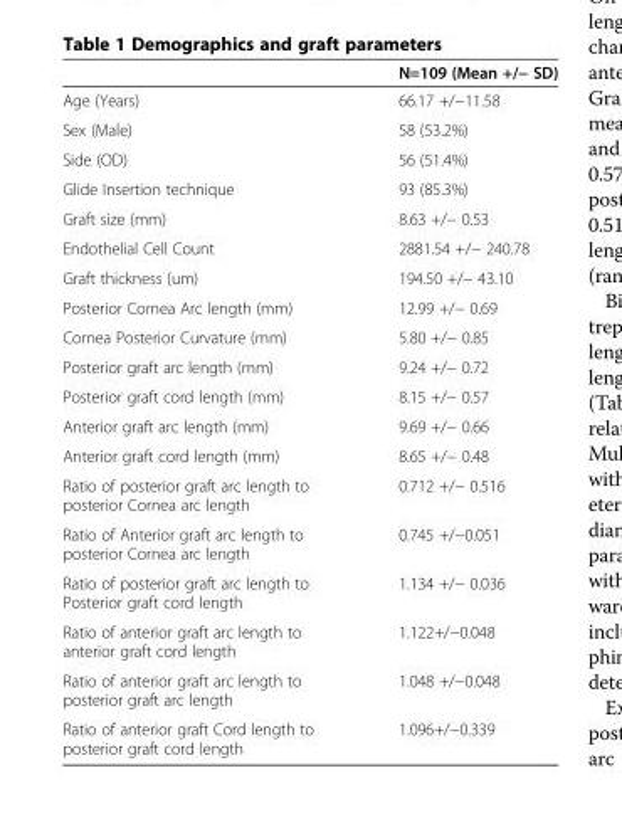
<table><thead><tr><td></td><td>N=109 (Mean +/− SD)</td></tr></thead><tbody><tr><td>Age (Years)</td><td>66.17 +/−11.58</td></tr><tr><td>Sex (Male)</td><td>58 (53.2%)</td></tr><tr><td>Side (OD)</td><td>56 (51.4%)</td></tr><tr><td>Glide Insertion technique</td><td>93 (85.3%)</td></tr><tr><td>Graft size (mm)</td><td>8.63 +/− 0.53</td></tr><tr><td>Endothelial Cell Count</td><td>2881.54 +/− 240.78</td></tr><tr><td>Graft thickness (um)</td><td>194.50 +/− 43.10</td></tr><tr><td>Posterior Cornea Arc length (mm)</td><td>12.99 +/− 0.69</td></tr><tr><td>Cornea Posterior Curvature (mm)</td><td>5.80 +/− 0.85</td></tr><tr><td>Posterior graft arc length (mm)</td><td>9.24 +/− 0.72</td></tr><tr><td>Posterior graft cord length (mm)</td><td>8.15 +/− 0.57</td></tr><tr><td>Anterior graft arc length (mm)</td><td>9.69 +/− 0.66</td></tr><tr><td>Anterior graft cord length (mm)</td><td>8.65 +/− 0.48</td></tr><tr><td>Ratio of posterior graft arc length to posterior Cornea arc length</td><td>0.712 +/− 0.516</td></tr><tr><td>Ratio of Anterior graft arc length to posterior Cornea arc length</td><td>0.745 +/−0.051</td></tr><tr><td>Ratio of posterior graft arc length to Posterior graft cord length</td><td>1.134 +/− 0.036</td></tr><tr><td>Ratio of anterior graft arc length to anterior graft cord length</td><td>1.122+/−0.048</td></tr><tr><td>Ratio of anterior graft arc length to posterior graft arc length</td><td>1.048 +/−0.048</td></tr><tr><td>Ratio of anterior graft Cord length to posterior graft cord length</td><td>1.096+/−0.339</td></tr></tbody></table>